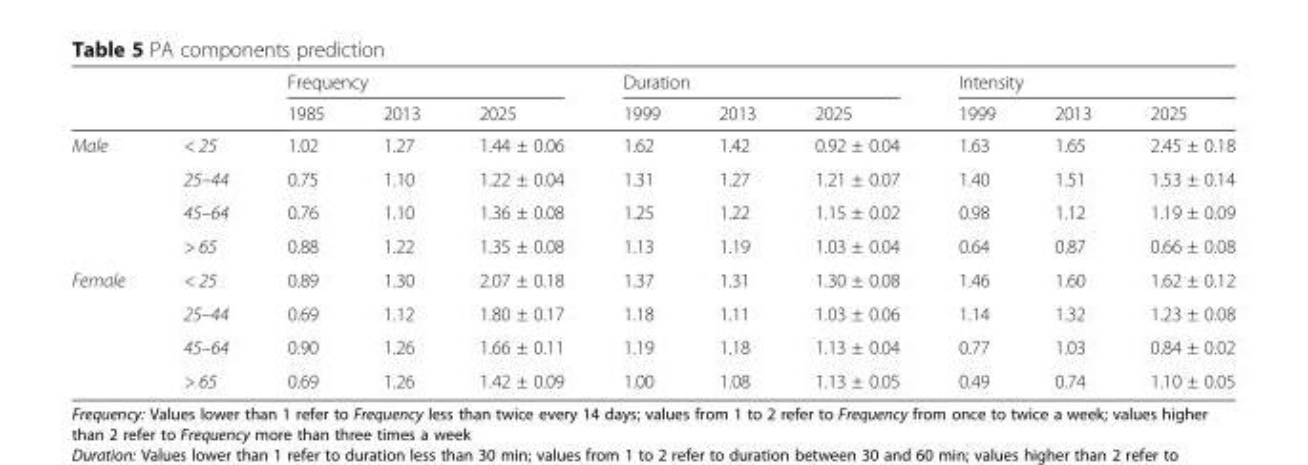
<table><thead><tr><td rowspan="2"></td><td rowspan="2"></td><td colspan="3">Frequency</td><td colspan="3">Duration</td><td colspan="3">Intensity</td></tr><tr><td>1985</td><td>2013</td><td>2025</td><td>1999</td><td>2013</td><td>2025</td><td>1999</td><td>2013</td><td>2025</td></tr></thead><tbody><tr><td rowspan="4">Male</td><td>&lt; 25</td><td>1.02</td><td>1.27</td><td>1.44 ± 0.06</td><td>1.62</td><td>1.42</td><td>0.92 ± 0.04</td><td>1.63</td><td>1.65</td><td>2.45 ± 0.18</td></tr><tr><td>25–44</td><td>0.75</td><td>1.10</td><td>1.22 ± 0.04</td><td>1.31</td><td>1.27</td><td>1.21 ± 0.07</td><td>1.40</td><td>1.51</td><td>1.53 ± 0.14</td></tr><tr><td>45–64</td><td>0.76</td><td>1.10</td><td>1.36 ± 0.08</td><td>1.25</td><td>1.22</td><td>1.15 ± 0.02</td><td>0.98</td><td>1.12</td><td>1.19 ± 0.09</td></tr><tr><td>&gt; 65</td><td>0.88</td><td>1.22</td><td>1.35 ± 0.08</td><td>1.13</td><td>1.19</td><td>1.03 ± 0.04</td><td>0.64</td><td>0.87</td><td>0.66 ± 0.08</td></tr><tr><td rowspan="4">Female</td><td>&lt; 25</td><td>0.89</td><td>1.30</td><td>2.07 ± 0.18</td><td>1.37</td><td>1.31</td><td>1.30 ± 0.08</td><td>1.46</td><td>1.60</td><td>1.62 ± 0.12</td></tr><tr><td>25–44</td><td>0.69</td><td>1.12</td><td>1.80 ± 0.17</td><td>1.18</td><td>1.11</td><td>1.03 ± 0.06</td><td>1.14</td><td>1.32</td><td>1.23 ± 0.08</td></tr><tr><td>45–64</td><td>0.90</td><td>1.26</td><td>1.66 ± 0.11</td><td>1.19</td><td>1.18</td><td>1.13 ± 0.04</td><td>0.77</td><td>1.03</td><td>0.84 ± 0.02</td></tr><tr><td>&gt; 65</td><td>0.69</td><td>1.26</td><td>1.42 ± 0.09</td><td>1.00</td><td>1.08</td><td>1.13 ± 0.05</td><td>0.49</td><td>0.74</td><td>1.10 ± 0.05</td></tr></tbody></table>